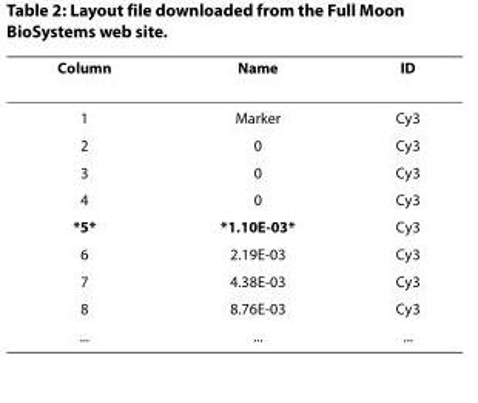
<table><thead><tr><td>Column</td><td>Name</td><td>ID</td></tr></thead><tbody><tr><td>1</td><td>Marker</td><td>Cy3</td></tr><tr><td>2</td><td>0</td><td>Cy3</td></tr><tr><td>3</td><td>0</td><td>Cy3</td></tr><tr><td>4</td><td>0</td><td>Cy3</td></tr><tr><td>*5*</td><td>*1.10E-03*</td><td>Cy3</td></tr><tr><td>6</td><td>2.19E-03</td><td>Cy3</td></tr><tr><td>7</td><td>4.38E-03</td><td>Cy3</td></tr><tr><td>8</td><td>8.76E-03</td><td>Cy3</td></tr><tr><td>...</td><td>...</td><td>...</td></tr></tbody></table>